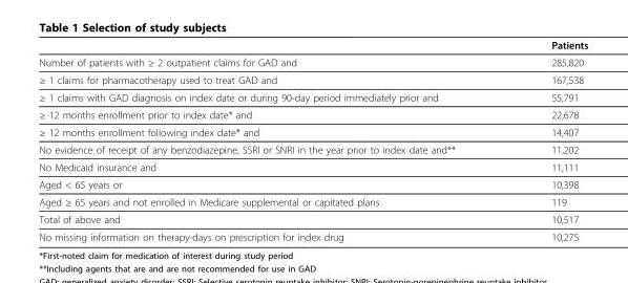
<table><thead><tr><td></td><td>Patients</td></tr></thead><tbody><tr><td>Number of patients with ≥ 2 outpatient claims for GAD and</td><td>285,820</td></tr><tr><td>≥ 1 claims for pharmacotherapy used to treat GAD and</td><td>167,538</td></tr><tr><td>≥ 1 claims with GAD diagnosis on index date or during 90-day period immediately prior and</td><td>55,791</td></tr><tr><td>≥ 12 months enrollment prior to index date* and</td><td>22,678</td></tr><tr><td>≥ 12 months enrollment following index date* and</td><td>14,407</td></tr><tr><td>No evidence of receipt of any benzodiazepine, SSRI or SNRI in the year prior to index date and**</td><td>11,202</td></tr><tr><td>No Medicaid insurance and</td><td>11,111</td></tr><tr><td>Aged &lt; 65 years or</td><td>10,398</td></tr><tr><td>Aged ≥ 65 years and not enrolled in Medicare supplemental or capitated plans</td><td>119</td></tr><tr><td>Total of above and</td><td>10,517</td></tr><tr><td>No missing information on therapy-days on prescription for index drug</td><td>10,275</td></tr></tbody></table>